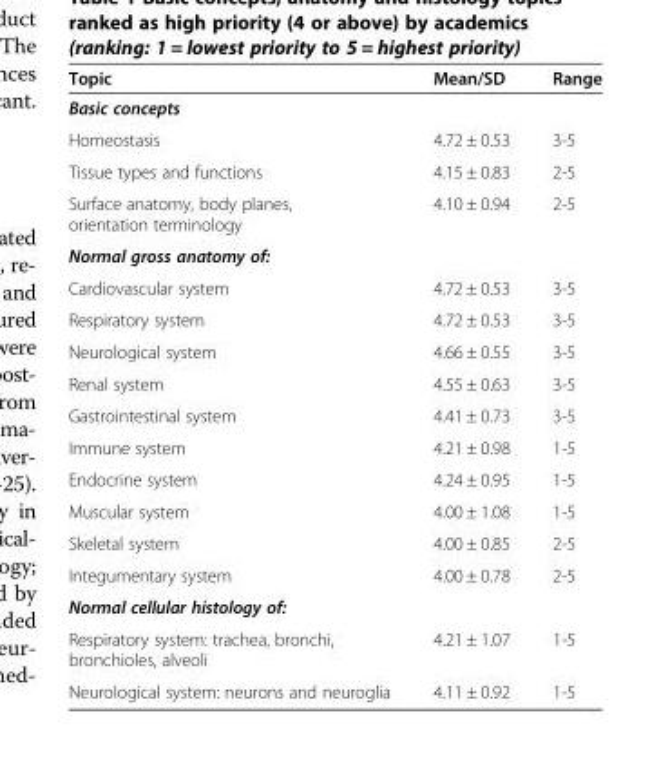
<table><thead><tr><td>Topic</td><td>Mean/SD</td><td>Range</td></tr></thead><tbody><tr><td colspan="3">Basic concepts</td></tr><tr><td>Homeostasis</td><td>4.72 ± 0.53</td><td>3-5</td></tr><tr><td>Tissue types and functions</td><td>4.15 ± 0.83</td><td>2-5</td></tr><tr><td>Surface anatomy, body planes, orientation terminology</td><td>4.10 ± 0.94</td><td>2-5</td></tr><tr><td colspan="3">Normal gross anatomy of:</td></tr><tr><td>Cardiovascular system</td><td>4.72 ± 0.53</td><td>3-5</td></tr><tr><td>Respiratory system</td><td>4.72 ± 0.53</td><td>3-5</td></tr><tr><td>Neurological system</td><td>4.66 ± 0.55</td><td>3-5</td></tr><tr><td>Renal system</td><td>4.55 ± 0.63</td><td>3-5</td></tr><tr><td>Gastrointestinal system</td><td>4.41 ± 0.73</td><td>3-5</td></tr><tr><td>Immune system</td><td>4.21 ± 0.98</td><td>1-5</td></tr><tr><td>Endocrine system</td><td>4.24 ± 0.95</td><td>1-5</td></tr><tr><td>Muscular system</td><td>4.00 ± 1.08</td><td>1-5</td></tr><tr><td>Skeletal system</td><td>4.00 ± 0.85</td><td>2-5</td></tr><tr><td>Integumentary system</td><td>4.00 ± 0.78</td><td>2-5</td></tr><tr><td colspan="3">Normal cellular histology of:</td></tr><tr><td>Respiratory system: trachea, bronchi, bronchioles, alveoli</td><td>4.21 ± 1.07</td><td>1-5</td></tr><tr><td>Neurological system: neurons and neuroglia</td><td>4.11 ± 0.92</td><td>1-5</td></tr></tbody></table>